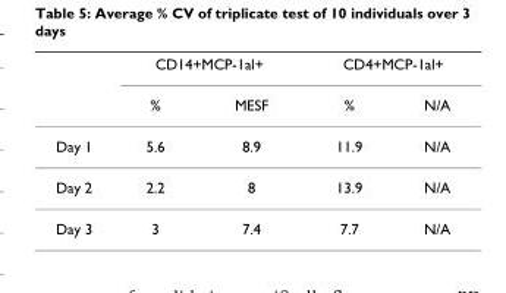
<table><thead><tr><td rowspan="2"></td><td colspan="2">CD14+MCP-1al+</td><td colspan="2">CD4+MCP-1al+</td></tr><tr><td>%</td><td>MESF</td><td>%</td><td>N/A</td></tr></thead><tbody><tr><td>Day 1</td><td>5.6</td><td>8.9</td><td>11.9</td><td>N/A</td></tr><tr><td>Day 2</td><td>2.2</td><td>8</td><td>13.9</td><td>N/A</td></tr><tr><td>Day 3</td><td>3</td><td>7.4</td><td>7.7</td><td>N/A</td></tr></tbody></table>